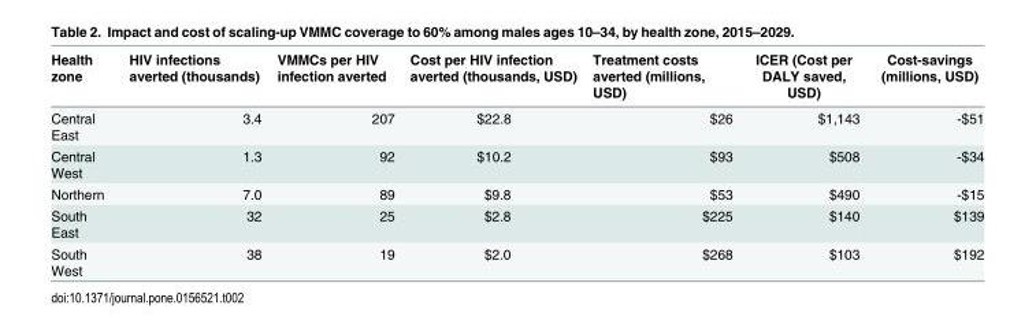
<table><thead><tr><td>Health zone</td><td>HIV infections averted (thousands)</td><td>VMMCs per HIV infection averted</td><td>Cost per HIV infection averted (thousands, USD)</td><td>Treatment costs averted (millions, USD)</td><td>ICER (Cost per DALY saved, USD)</td><td>Cost-savings (millions, USD)</td></tr></thead><tbody><tr><td>Central East</td><td>3.4</td><td>207</td><td>$22.8</td><td>$26</td><td>$1,143</td><td>-$51</td></tr><tr><td>Central West</td><td>1.3</td><td>92</td><td>$10.2</td><td>$93</td><td>$508</td><td>-$34</td></tr><tr><td>Northern</td><td>7.0</td><td>89</td><td>$9.8</td><td>$53</td><td>$490</td><td>-$15</td></tr><tr><td>South East</td><td>32</td><td>25</td><td>$2.8</td><td>$225</td><td>$140</td><td>$139</td></tr><tr><td>South West</td><td>38</td><td>19</td><td>$2.0</td><td>$268</td><td>$103</td><td>$192</td></tr></tbody></table>